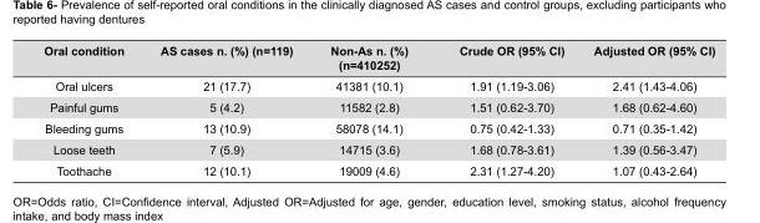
<table><thead><tr><td>Oral condition</td><td>AS cases n. (%) (n=119)</td><td>Non-As n. (%) (n=410252)</td><td>Crude OR (95% CI)</td><td>Adjusted OR (95% CI)</td></tr></thead><tbody><tr><td>Oral ulcers</td><td>21 (17.7)</td><td>41381 (10.1)</td><td>1.91 (1.19-3.06)</td><td>2.41 (1.43-4.06)</td></tr><tr><td>Painful gums</td><td>5 (4.2)</td><td>11582 (2.8)</td><td>1.51 (0.62-3.70)</td><td>1.68 (0.62-4.60)</td></tr><tr><td>Bleeding gums</td><td>13 (10.9)</td><td>58078 (14.1)</td><td>0.75 (0.42-1.33)</td><td>0.71 (0.35-1.42)</td></tr><tr><td>Loose teeth</td><td>7 (5.9)</td><td>14715 (3.6)</td><td>1.68 (0.78-3.61)</td><td>1.39 (0.56-3.47)</td></tr><tr><td>Toothache</td><td>12 (10.1)</td><td>19009 (4.6)</td><td>2.31 (1.27-4.20)</td><td>1.07 (0.43-2.64)</td></tr></tbody></table>